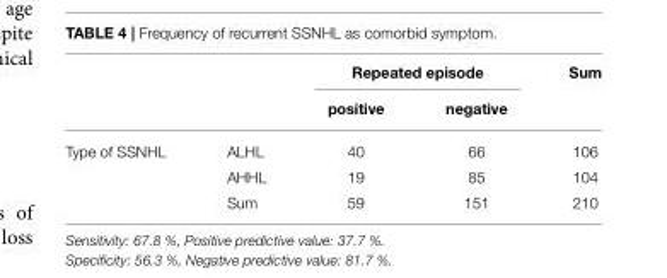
<table><thead><tr><td rowspan="2"></td><td rowspan="2"></td><td colspan="2">Repeated episode</td><td rowspan="2">Sum</td></tr><tr><td>positive</td><td>negative</td></tr></thead><tbody><tr><td rowspan="3">Type of SSNHL</td><td>ALHL</td><td>40</td><td>66</td><td>106</td></tr><tr><td>AHHL</td><td>19</td><td>85</td><td>104</td></tr><tr><td>Sum</td><td>59</td><td>151</td><td>210</td></tr></tbody></table>